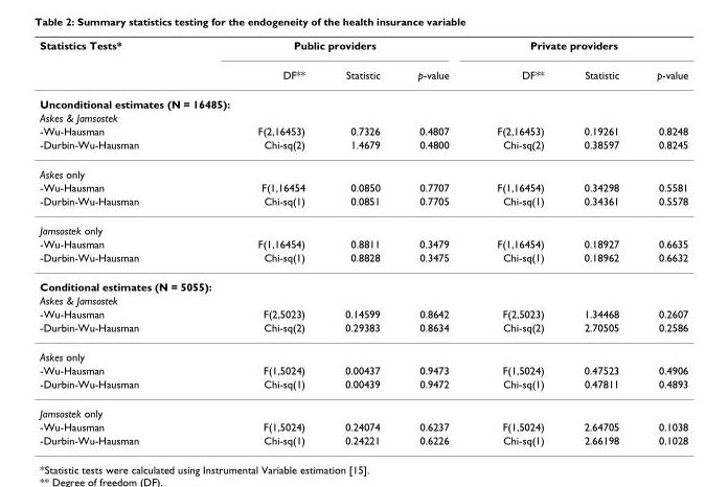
<table><thead><tr><td rowspan="2">Statistics Tests*</td><td colspan="3">Public providers</td><td colspan="3">Private providers</td></tr><tr><td>DF**</td><td>Statistic</td><td>p-value</td><td>DF**</td><td>Statistic</td><td>p-value</td></tr></thead><tbody><tr><td colspan="7">Unconditional estimates (N = 16485):</td></tr><tr><td colspan="7">Askes &amp; Jamsostek</td></tr><tr><td>-Wu-Hausman</td><td>F(2,16453)</td><td>0.7326</td><td>0.4807</td><td>F(2,16453)</td><td>0.19261</td><td>0.8248</td></tr><tr><td>-Durbin-Wu-Hausman</td><td>Chi-sq(2)</td><td>1.4679</td><td>0.4800</td><td>Chi-sq(2)</td><td>0.38597</td><td>0.8245</td></tr><tr><td colspan="7">Askes only</td></tr><tr><td>-Wu-Hausman</td><td>F(1,16454</td><td>0.0850</td><td>0.7707</td><td>F(1,16454)</td><td>0.34298</td><td>0.5581</td></tr><tr><td>-Durbin-Wu-Hausman</td><td>Chi-sq(1)</td><td>0.0851</td><td>0.7705</td><td>Chi-sq(1)</td><td>0.34361</td><td>0.5578</td></tr><tr><td colspan="7">Jamsostek only</td></tr><tr><td>-Wu-Hausman</td><td>F(1,16454)</td><td>0.8811</td><td>0.3479</td><td>F(1,16454)</td><td>0.18927</td><td>0.6635</td></tr><tr><td>-Durbin-Wu-Hausman</td><td>Chi-sq(1)</td><td>0.8828</td><td>0.3475</td><td>Chi-sq(1)</td><td>0.18962</td><td>0.6632</td></tr><tr><td colspan="7">Conditional estimates (N = 5055):</td></tr><tr><td colspan="7">Askes &amp; Jamsostek</td></tr><tr><td>-Wu-Hausman</td><td>F(2,5023)</td><td>0.14599</td><td>0.8642</td><td>F(2,5023)</td><td>1.34468</td><td>0.2607</td></tr><tr><td>-Durbin-Wu-Hausman</td><td>Chi-sq(2)</td><td>0.29383</td><td>0.8634</td><td>Chi-sq(2)</td><td>2.70505</td><td>0.2586</td></tr><tr><td colspan="7">Askes only</td></tr><tr><td>-Wu-Hausman</td><td>F(1,5024)</td><td>0.00437</td><td>0.9473</td><td>F(1,5024)</td><td>0.47523</td><td>0.4906</td></tr><tr><td>-Durbin-Wu-Hausman</td><td>Chi-sq(1)</td><td>0.00439</td><td>0.9472</td><td>Chi-sq(1)</td><td>0.47811</td><td>0.4893</td></tr><tr><td colspan="7">Jamsostek only</td></tr><tr><td>-Wu-Hausman</td><td>F(1,5024)</td><td>0.24074</td><td>0.6237</td><td>F(1,5024)</td><td>2.64705</td><td>0.1038</td></tr><tr><td>-Durbin-Wu-Hausman</td><td>Chi-sq(1)</td><td>0.24221</td><td>0.6226</td><td>Chi-sq(1)</td><td>2.66198</td><td>0.1028</td></tr></tbody></table>